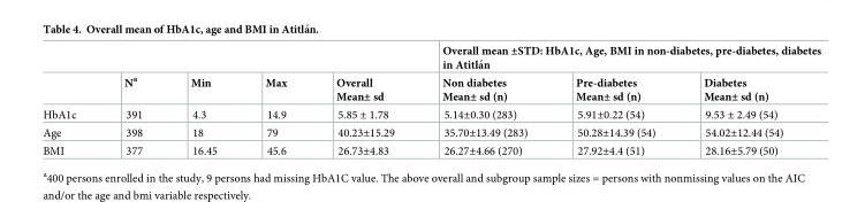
<table><thead><tr><td rowspan="2"></td><td rowspan="2">N<sup>a</sup></td><td rowspan="2">Min</td><td rowspan="2">Max</td><td rowspan="2">Overall Mean± sd</td><td colspan="3">Overall mean ±STD: HbA1c, Age, BMI in non-diabetes, pre-diabetes, diabetes in Atitla´n</td></tr><tr><td>Non diabetes Mean± sd (n)</td><td>Pre-diabetes Mean± sd (n)</td><td>Diabetes Mean± sd (n)</td></tr></thead><tbody><tr><td>HbA1c</td><td>391</td><td>4.3</td><td>14.9</td><td>5.85 ± 1.78</td><td>5.14±0.30 (283)</td><td>5.91±0.22 (54)</td><td>9.53 ± 2.49 (54)</td></tr><tr><td>Age</td><td>398</td><td>18</td><td>79</td><td>40.23±15.29</td><td>35.70±13.49 (283)</td><td>50.28±14.39 (54)</td><td>54.02±12.44 (54)</td></tr><tr><td>BMI</td><td>377</td><td>16.45</td><td>45.6</td><td>26.73±4.83</td><td>26.27±4.66 (270)</td><td>27.92±4.4 (51)</td><td>28.16±5.79 (50)</td></tr></tbody></table>